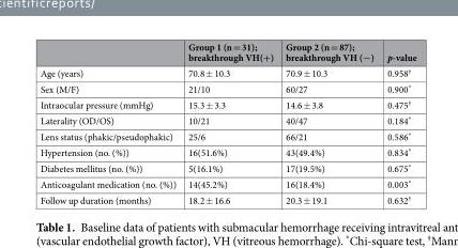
<table><thead><tr><td></td><td>Group 1 (n = 31); breakthrough VH(+)</td><td>Group 2 (n = 87); breakthrough VH (−)</td><td>p-value</td></tr></thead><tbody><tr><td>Age (years)</td><td>70.8 ± 10.3</td><td>70.9 ± 10.3</td><td>0.958<sup>†</sup></td></tr><tr><td>Sex (M/F)</td><td>21/10</td><td>60/27</td><td>0.900*</td></tr><tr><td>Intraocular pressure (mmHg)</td><td>15.3 ± 3.3</td><td>14.6 ± 3.8</td><td>0.475<sup>†</sup></td></tr><tr><td>Laterality (OD/OS)</td><td>10/21</td><td>40/47</td><td>0.184*</td></tr><tr><td>Lens status (phakic/pseudophakic)</td><td>25/6</td><td>66/21</td><td>0.586*</td></tr><tr><td>Hypertension (no. (%))</td><td>16(51.6%)</td><td>43(49.4%)</td><td>0.834*</td></tr><tr><td>Diabetes mellitus (no. (%))</td><td>5(16.1%)</td><td>17(19.5%)</td><td>0.675*</td></tr><tr><td>Anticoagulant medication (no. (%))</td><td>14(45.2%)</td><td>16(18.4%)</td><td>0.003*</td></tr><tr><td>Follow up duration (months)</td><td>18.2 ± 16.6</td><td>20.3 ± 19.1</td><td>0.632<sup>†</sup></td></tr></tbody></table>